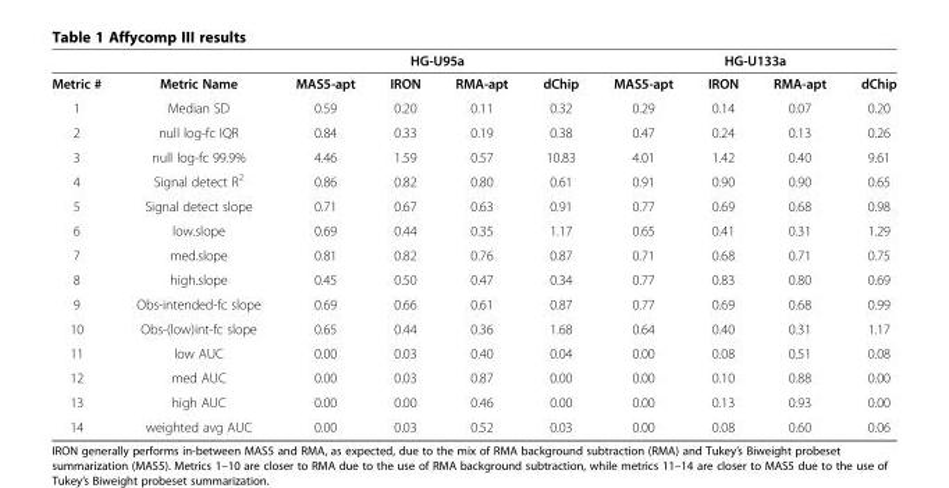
<table><thead><tr><td rowspan="2">Metric #</td><td rowspan="2">Metric Name</td><td colspan="4">HG-U95a</td><td colspan="4">HG-U133a</td></tr><tr><td>MAS5-apt</td><td>IRON</td><td>RMA-apt</td><td>dChip</td><td>MAS5-apt</td><td>IRON</td><td>RMA-apt</td><td>dChip</td></tr></thead><tbody><tr><td>1</td><td>Median SD</td><td>0.59</td><td>0.20</td><td>0.11</td><td>0.32</td><td>0.29</td><td>0.14</td><td>0.07</td><td>0.20</td></tr><tr><td>2</td><td>null log-fc IQR</td><td>0.84</td><td>0.33</td><td>0.19</td><td>0.38</td><td>0.47</td><td>0.24</td><td>0.13</td><td>0.26</td></tr><tr><td>3</td><td>null log-fc 99.9%</td><td>4.46</td><td>1.59</td><td>0.57</td><td>10.83</td><td>4.01</td><td>1.42</td><td>0.40</td><td>9.61</td></tr><tr><td>4</td><td>Signal detect R<sup>2</sup></td><td>0.86</td><td>0.82</td><td>0.80</td><td>0.61</td><td>0.91</td><td>0.90</td><td>0.90</td><td>0.65</td></tr><tr><td>5</td><td>Signal detect slope</td><td>0.71</td><td>0.67</td><td>0.63</td><td>0.91</td><td>0.77</td><td>0.69</td><td>0.68</td><td>0.98</td></tr><tr><td>6</td><td>low.slope</td><td>0.69</td><td>0.44</td><td>0.35</td><td>1.17</td><td>0.65</td><td>0.41</td><td>0.31</td><td>1.29</td></tr><tr><td>7</td><td>med.slope</td><td>0.81</td><td>0.82</td><td>0.76</td><td>0.87</td><td>0.71</td><td>0.68</td><td>0.71</td><td>0.75</td></tr><tr><td>8</td><td>high.slope</td><td>0.45</td><td>0.50</td><td>0.47</td><td>0.34</td><td>0.77</td><td>0.83</td><td>0.80</td><td>0.69</td></tr><tr><td>9</td><td>Obs-intended-fc slope</td><td>0.69</td><td>0.66</td><td>0.61</td><td>0.87</td><td>0.77</td><td>0.69</td><td>0.68</td><td>0.99</td></tr><tr><td>10</td><td>Obs-(low)int-fc slope</td><td>0.65</td><td>0.44</td><td>0.36</td><td>1.68</td><td>0.64</td><td>0.40</td><td>0.31</td><td>1.17</td></tr><tr><td>11</td><td>low AUC</td><td>0.00</td><td>0.03</td><td>0.40</td><td>0.04</td><td>0.00</td><td>0.08</td><td>0.51</td><td>0.08</td></tr><tr><td>12</td><td>med AUC</td><td>0.00</td><td>0.03</td><td>0.87</td><td>0.00</td><td>0.00</td><td>0.10</td><td>0.88</td><td>0.00</td></tr><tr><td>13</td><td>high AUC</td><td>0.00</td><td>0.00</td><td>0.46</td><td>0.00</td><td>0.00</td><td>0.13</td><td>0.93</td><td>0.00</td></tr><tr><td>14</td><td>weighted avg AUC</td><td>0.00</td><td>0.03</td><td>0.52</td><td>0.03</td><td>0.00</td><td>0.08</td><td>0.60</td><td>0.06</td></tr></tbody></table>